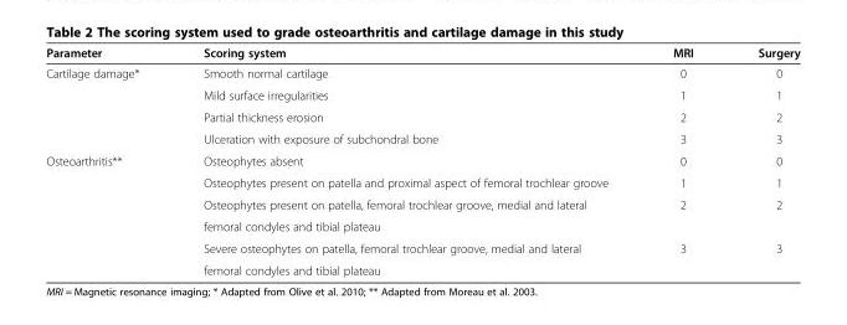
<table><thead><tr><td>Parameter</td><td>Scoring system</td><td>MRI</td><td>Surgery</td></tr></thead><tbody><tr><td rowspan="4">Cartilage damage*</td><td>Smooth normal cartilage</td><td>0</td><td>0</td></tr><tr><td>Mild surface irregularities</td><td>1</td><td>1</td></tr><tr><td>Partial thickness erosion</td><td>2</td><td>2</td></tr><tr><td>Ulceration with exposure of subchondral bone</td><td>3</td><td>3</td></tr><tr><td rowspan="6">Osteoarthritis**</td><td>Osteophytes absent</td><td>0</td><td>0</td></tr><tr><td>Osteophytes present on patella and proximal aspect of femoral trochlear groove</td><td>1</td><td>1</td></tr><tr><td>Osteophytes present on patella, femoral trochlear groove, medial and lateral</td><td>2</td><td>2</td></tr><tr><td>femoral condyles and tibial plateau</td><td></td><td></td></tr><tr><td>Severe osteophytes on patella, femoral trochlear groove, medial and lateral</td><td>3</td><td>3</td></tr><tr><td>femoral condyles and tibial plateau</td><td></td><td></td></tr></tbody></table>